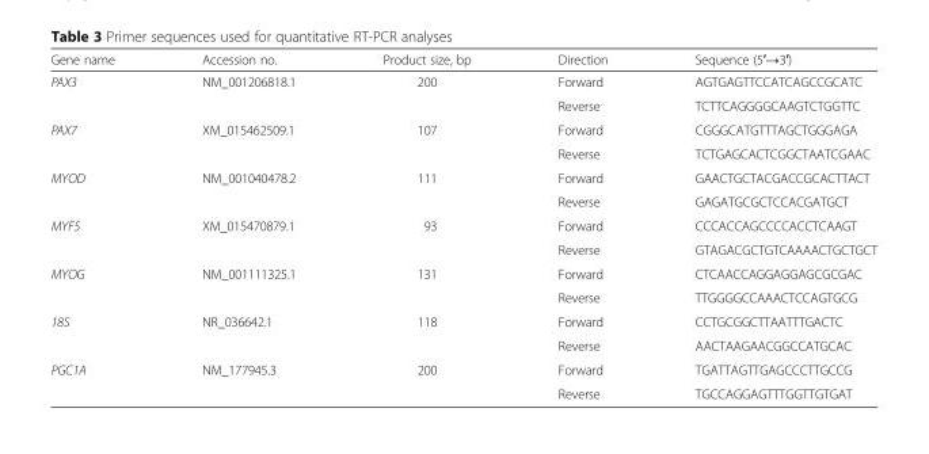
<table><thead><tr><td>Gene name</td><td>Accession no.</td><td>Product size, bp</td><td>Direction</td><td>Sequence (5′→3′)</td></tr></thead><tbody><tr><td rowspan="2">PAX3</td><td rowspan="2">NM_001206818.1</td><td rowspan="2">200</td><td>Forward</td><td>AGTGAGTTCCATCAGCCGCATC</td></tr><tr><td>Reverse</td><td>TCTTCAGGGGCAAGTCTGGTTC</td></tr><tr><td rowspan="2">PAX7</td><td rowspan="2">XM_015462509.1</td><td rowspan="2">107</td><td>Forward</td><td>CGGGCATGTTTAGCTGGGAGA</td></tr><tr><td>Reverse</td><td>TCTGAGCACTCGGCTAATCGAAC</td></tr><tr><td rowspan="2">MYOD</td><td rowspan="2">NM_001040478.2</td><td rowspan="2">111</td><td>Forward</td><td>GAACTGCTACGACCGCACTTACT</td></tr><tr><td>Reverse</td><td>GAGATGCGCTCCACGATGCT</td></tr><tr><td rowspan="2">MYF5</td><td rowspan="2">XM_015470879.1</td><td rowspan="2">93</td><td>Forward</td><td>CCCACCAGCCCCACCTCAAGT</td></tr><tr><td>Reverse</td><td>GTAGACGCTGTCAAAACTGCTGCT</td></tr><tr><td rowspan="2">MYOG</td><td rowspan="2">NM_001111325.1</td><td rowspan="2">131</td><td>Forward</td><td>CTCAACCAGGAGGAGCGCGAC</td></tr><tr><td>Reverse</td><td>TTGGGGCCAAACTCCAGTGCG</td></tr><tr><td rowspan="2">18S</td><td rowspan="2">NR_036642.1</td><td rowspan="2">118</td><td>Forward</td><td>CCTGCGGCTTAATTTGACTC</td></tr><tr><td>Reverse</td><td>AACTAAGAACGGCCATGCAC</td></tr><tr><td rowspan="2">PGC1A</td><td rowspan="2">NM_177945.3</td><td rowspan="2">200</td><td>Forward</td><td>TGATTAGTTGAGCCCTTGCCG</td></tr><tr><td>Reverse</td><td>TGCCAGGAGTTTGGTTGTGAT</td></tr></tbody></table>